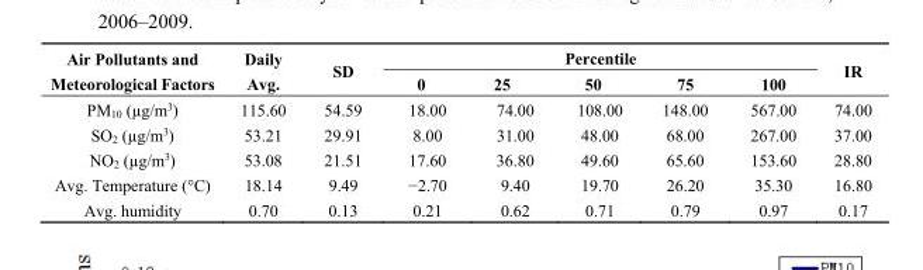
<table><thead><tr><td rowspan="2">Air Pollutants and Meteorological Factors</td><td rowspan="2">Daily Avg.</td><td rowspan="2">SD</td><td colspan="5">Percentile</td><td rowspan="2">IR</td></tr><tr><td>0</td><td>25</td><td>50</td><td>75</td><td>100</td></tr></thead><tbody><tr><td>PM<sub>10</sub> (µg/m<sup>3</sup>)</td><td>115.60</td><td>54.59</td><td>18.00</td><td>74.00</td><td>108.00</td><td>148.00</td><td>567.00</td><td>74.00</td></tr><tr><td>SO<sub>2</sub> (µg/m<sup>3</sup>)</td><td>53.21</td><td>29.91</td><td>8.00</td><td>31.00</td><td>48.00</td><td>68.00</td><td>267.00</td><td>37.00</td></tr><tr><td>NO<sub>2</sub> (µg/m<sup>3</sup>)</td><td>53.08</td><td>21.51</td><td>17.60</td><td>36.80</td><td>49.60</td><td>65.60</td><td>153.60</td><td>28.80</td></tr><tr><td>Avg. Temperature (°C)</td><td>18.14</td><td>9.49</td><td>−2.70</td><td>9.40</td><td>19.70</td><td>26.20</td><td>35.30</td><td>16.80</td></tr><tr><td>Avg. humidity</td><td>0.70</td><td>0.13</td><td>0.21</td><td>0.62</td><td>0.71</td><td>0.79</td><td>0.97</td><td>0.17</td></tr></tbody></table>